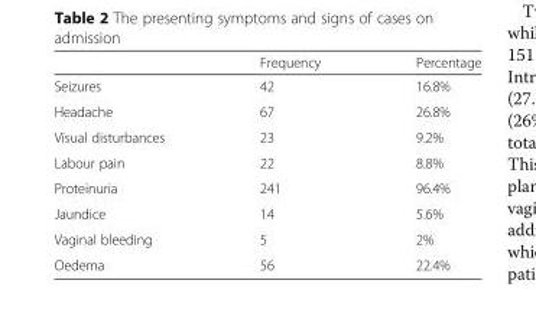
<table><thead><tr><td></td><td>Frequency</td><td>Percentage</td></tr></thead><tbody><tr><td>Seizures</td><td>42</td><td>16.8%</td></tr><tr><td>Headache</td><td>67</td><td>26.8%</td></tr><tr><td>Visual disturbances</td><td>23</td><td>9.2%</td></tr><tr><td>Labour pain</td><td>22</td><td>8.8%</td></tr><tr><td>Proteinuria</td><td>241</td><td>96.4%</td></tr><tr><td>Jaundice</td><td>14</td><td>5.6%</td></tr><tr><td>Vaginal bleeding</td><td>5</td><td>2%</td></tr><tr><td>Oedema</td><td>56</td><td>22.4%</td></tr></tbody></table>